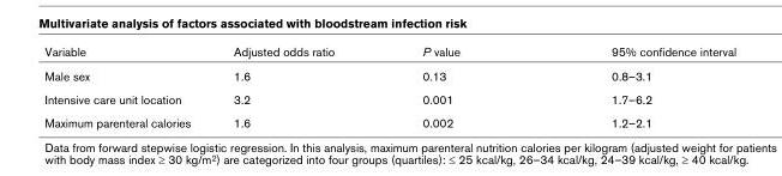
<table><thead><tr><td>Variable</td><td>Adjusted odds ratio</td><td>P value</td><td>95% confidence interval</td></tr></thead><tbody><tr><td>Male sex</td><td>1.6</td><td>0.13</td><td>0.8–3.1</td></tr><tr><td>Intensive care unit location</td><td>3.2</td><td>0.001</td><td>1.7–6.2</td></tr><tr><td>Maximum parenteral calories</td><td>1.6</td><td>0.002</td><td>1.2–2.1</td></tr></tbody></table>